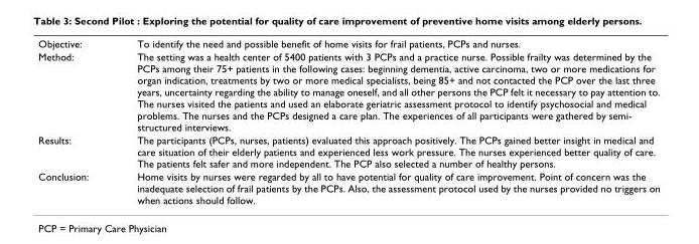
<table><tbody><tr><td>Objective:</td><td>To identify the need and possible benefit of home visits for frail patients, PCPs and nurses.</td></tr><tr><td>Method:</td><td>The setting was a health center of 5400 patients with 3 PCPs and a practice nurse. Possible frailty was determined by the PCPs among their 75+ patients in the following cases: beginning dementia, active carcinoma, two or more medications for organ indication, treatments by two or more medical specialists, being 85+ and not contacted the PCP over the last three years, uncertainty regarding the ability to manage oneself, and all other persons the PCP felt it necessary to pay attention to. The nurses visited the patients and used an elaborate geriatric assessment protocol to identify psychosocial and medical problems. The nurses and the PCPs designed a care plan. The experiences of all participants were gathered by semi- structured interviews.</td></tr><tr><td>Results:</td><td>The participants (PCPs, nurses, patients) evaluated this approach positively. The PCPs gained better insight in medical and care situation of their elderly patients and experienced less work pressure. The nurses experienced better quality of care. The patients felt safer and more independent. The PCP also selected a number of healthy persons.</td></tr><tr><td>Conclusion:</td><td>Home visits by nurses were regarded by all to have potential for quality of care improvement. Point of concern was the inadequate selection of frail patients by the PCPs. Also, the assessment protocol used by the nurses provided no triggers on when actions should follow.</td></tr></tbody></table>